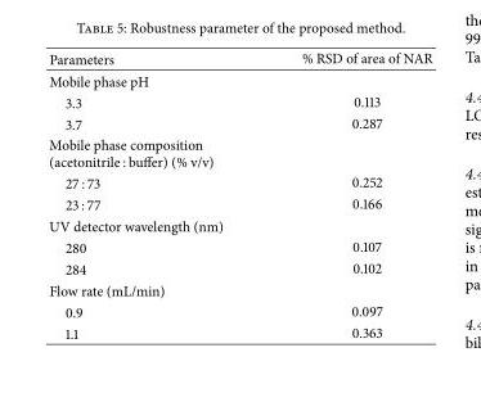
<table><thead><tr><td>Parameters</td><td>% RSD of area of NAR</td></tr></thead><tbody><tr><td colspan="2">Mobile phase pH</td></tr><tr><td>3.3</td><td>0.113</td></tr><tr><td>3.7</td><td>0.287</td></tr><tr><td colspan="2">Mobile phase composition (acetonitrile : buffer) (% v/v)</td></tr><tr><td>27 : 73</td><td>0.252</td></tr><tr><td>23 : 77</td><td>0.166</td></tr><tr><td colspan="2">UV detector wavelength (nm)</td></tr><tr><td>280</td><td>0.107</td></tr><tr><td>284</td><td>0.102</td></tr><tr><td colspan="2">Flow rate (mL/min)</td></tr><tr><td>0.9</td><td>0.097</td></tr><tr><td>1.1</td><td>0.363</td></tr></tbody></table>